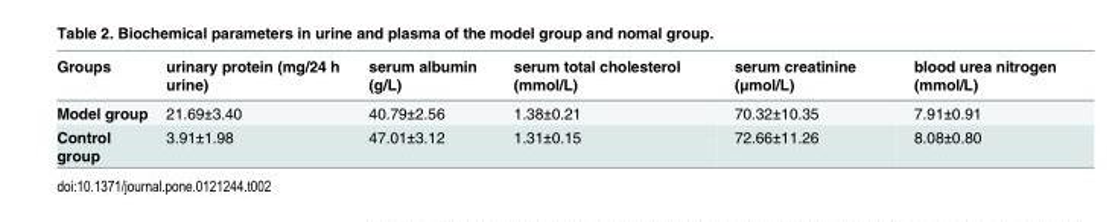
<table><thead><tr><td>Groups</td><td>urinary protein (mg/24 h urine)</td><td>serum albumin (g/L)</td><td>serum total cholesterol (mmol/L)</td><td>serum creatinine (μmol/L)</td><td>blood urea nitrogen (mmol/L)</td></tr></thead><tbody><tr><td>Model group</td><td>21.69±3.40</td><td>40.79±2.56</td><td>1.38±0.21</td><td>70.32±10.35</td><td>7.91±0.91</td></tr><tr><td>Control group</td><td>3.91±1.98</td><td>47.01±3.12</td><td>1.31±0.15</td><td>72.66±11.26</td><td>8.08±0.80</td></tr></tbody></table>